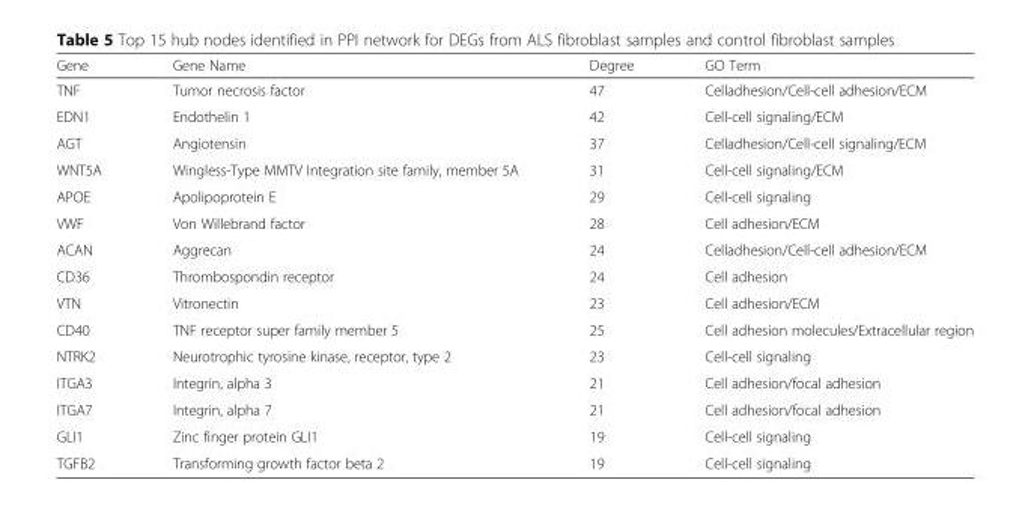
<table><thead><tr><td>Gene</td><td>Gene Name</td><td>Degree</td><td>GO Term</td></tr></thead><tbody><tr><td>TNF</td><td>Tumor necrosis factor</td><td>47</td><td>Celladhesion/Cell-cell adhesion/ECM</td></tr><tr><td>EDN1</td><td>Endothelin 1</td><td>42</td><td>Cell-cell signaling/ECM</td></tr><tr><td>AGT</td><td>Angiotensin</td><td>37</td><td>Celladhesion/Cell-cell signaling/ECM</td></tr><tr><td>WNT5A</td><td>Wingless-Type MMTV Integration site family, member 5A</td><td>31</td><td>Cell-cell signaling/ECM</td></tr><tr><td>APOE</td><td>Apolipoprotein E</td><td>29</td><td>Cell-cell signaling</td></tr><tr><td>VWF</td><td>Von Willebrand factor</td><td>28</td><td>Cell adhesion/ECM</td></tr><tr><td>ACAN</td><td>Aggrecan</td><td>24</td><td>Celladhesion/Cell-cell adhesion/ECM</td></tr><tr><td>CD36</td><td>Thrombospondin receptor</td><td>24</td><td>Cell adhesion</td></tr><tr><td>VTN</td><td>Vitronectin</td><td>23</td><td>Cell adhesion/ECM</td></tr><tr><td>CD40</td><td>TNF receptor super family member 5</td><td>25</td><td>Cell adhesion molecules/Extracellular region</td></tr><tr><td>NTRK2</td><td>Neurotrophic tyrosine kinase, receptor, type 2</td><td>23</td><td>Cell-cell signaling</td></tr><tr><td>ITGA3</td><td>Integrin, alpha 3</td><td>21</td><td>Cell adhesion/focal adhesion</td></tr><tr><td>ITGA7</td><td>Integrin, alpha 7</td><td>21</td><td>Cell adhesion/focal adhesion</td></tr><tr><td>GLI1</td><td>Zinc finger protein GLI1</td><td>19</td><td>Cell-cell signaling</td></tr><tr><td>TGFB2</td><td>Transforming growth factor beta 2</td><td>19</td><td>Cell-cell signaling</td></tr></tbody></table>